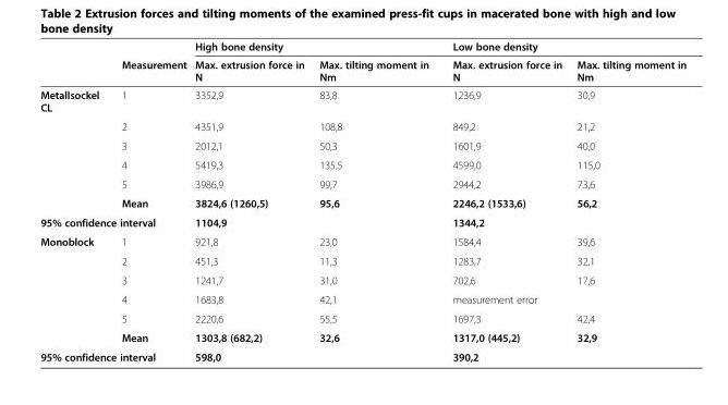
<table><thead><tr><td rowspan="2"></td><td rowspan="2">Measurement</td><td colspan="2">High bone density</td><td colspan="2">Low bone density</td></tr><tr><td>Max. extrusion force in N</td><td>Max. tilting moment in Nm</td><td>Max. extrusion force in N</td><td>Max. tilting moment in Nm</td></tr></thead><tbody><tr><td rowspan="6">Metallsockel CL</td><td>1</td><td>3352,9</td><td>83,8</td><td>1236,9</td><td>30,9</td></tr><tr><td>2</td><td>4351,9</td><td>108,8</td><td>849,2</td><td>21,2</td></tr><tr><td>3</td><td>2012,1</td><td>50,3</td><td>1601,9</td><td>40,0</td></tr><tr><td>4</td><td>5419,3</td><td>135,5</td><td>4599,0</td><td>115,0</td></tr><tr><td>5</td><td>3986,9</td><td>99,7</td><td>2944,2</td><td>73,6</td></tr><tr><td>Mean</td><td>3824,6 (1260,5)</td><td>95,6</td><td>2246,2 (1533,6)</td><td>56,2</td></tr><tr><td colspan="2">95% confidence interval</td><td>1104,9</td><td></td><td>1344,2</td><td></td></tr><tr><td rowspan="6">Monoblock</td><td>1</td><td>921,8</td><td>23,0</td><td>1584,4</td><td>39,6</td></tr><tr><td>2</td><td>451,3</td><td>11,3</td><td>1283,7</td><td>32,1</td></tr><tr><td>3</td><td>1241,7</td><td>31,0</td><td>702,6</td><td>17,6</td></tr><tr><td>4</td><td>1683,8</td><td>42,1</td><td colspan="2">measurement error</td></tr><tr><td>5</td><td>2220,6</td><td>55,5</td><td>1697,3</td><td>42,4</td></tr><tr><td>Mean</td><td>1303,8 (682,2)</td><td>32,6</td><td>1317,0 (445,2)</td><td>32,9</td></tr><tr><td colspan="2">95% confidence interval</td><td>598,0</td><td></td><td>390,2</td><td></td></tr></tbody></table>